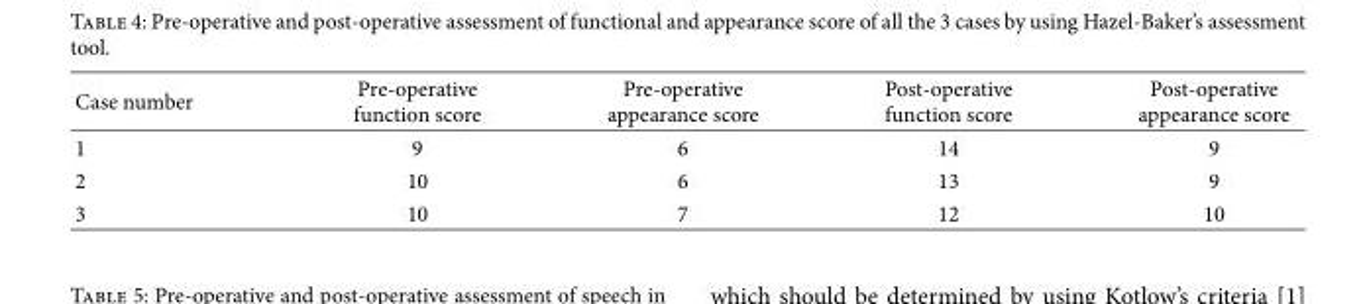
<table><thead><tr><td>Case number</td><td>Pre-operative function score</td><td>Pre-operative appearance score</td><td>Post-operative function score</td><td>Post-operative appearance score</td></tr></thead><tbody><tr><td>1</td><td>9</td><td>6</td><td>14</td><td>9</td></tr><tr><td>2</td><td>10</td><td>6</td><td>13</td><td>9</td></tr><tr><td>3</td><td>10</td><td>7</td><td>12</td><td>10</td></tr></tbody></table>